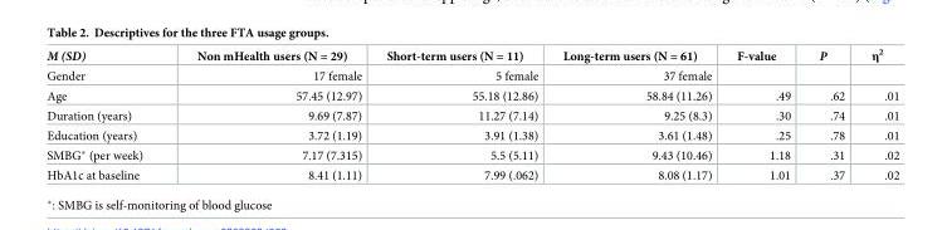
<table><thead><tr><td>M (SD)</td><td>Non mHealth users (N = 29)</td><td>Short-term users (N = 11)</td><td>Long-term users (N = 61)</td><td>F-value</td><td>P</td><td>η<sup>2</sup></td></tr></thead><tbody><tr><td>Gender</td><td>17 female</td><td>5 female</td><td>37 female</td><td></td><td></td><td></td></tr><tr><td>Age</td><td>57.45 (12.97)</td><td>55.18 (12.86)</td><td>58.84 (11.26)</td><td>.49</td><td>.62</td><td>.01</td></tr><tr><td>Duration (years)</td><td>9.69 (7.87)</td><td>11.27 (7.14)</td><td>9.25 (8.3)</td><td>.30</td><td>.74</td><td>.01</td></tr><tr><td>Education (years)</td><td>3.72 (1.19)</td><td>3.91 (1.38)</td><td>3.61 (1.48)</td><td>.25</td><td>.78</td><td>.01</td></tr><tr><td>SMBG* (per week)</td><td>7.17 (7.315)</td><td>5.5 (5.11)</td><td>9.43 (10.46)</td><td>1.18</td><td>.31</td><td>.02</td></tr><tr><td>HbA1c at baseline</td><td>8.41 (1.11)</td><td>7.99 (.062)</td><td>8.08 (1.17)</td><td>1.01</td><td>.37</td><td>.02</td></tr></tbody></table>